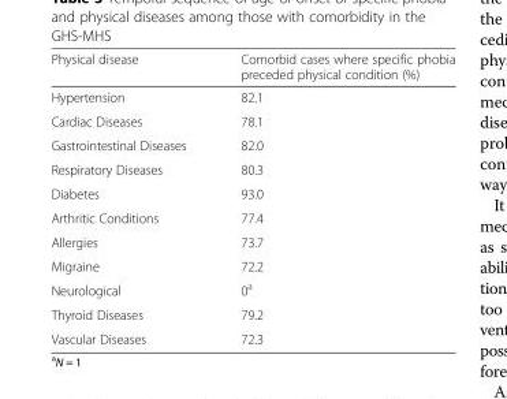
<table><thead><tr><td>Physical disease</td><td>Comorbid cases where specific phobia preceded physical condition (%)</td></tr></thead><tbody><tr><td>Hypertension</td><td>82.1</td></tr><tr><td>Cardiac Diseases</td><td>78.1</td></tr><tr><td>Gastrointestinal Diseases</td><td>82.0</td></tr><tr><td>Respiratory Diseases</td><td>80.3</td></tr><tr><td>Diabetes</td><td>93.0</td></tr><tr><td>Arthritic Conditions</td><td>77.4</td></tr><tr><td>Allergies</td><td>73.7</td></tr><tr><td>Migraine</td><td>72.2</td></tr><tr><td>Neurological</td><td>0<sup>a</sup></td></tr><tr><td>Thyroid Diseases</td><td>79.2</td></tr><tr><td>Vascular Diseases</td><td>72.3</td></tr></tbody></table>